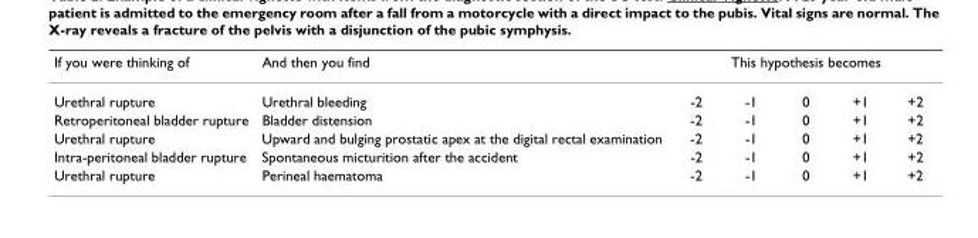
<table><thead><tr><td rowspan="2">If you were thinking of Urethral rupture</td><td rowspan="2">And then you find Urethral bleeding</td><td colspan="5">This hypothesis becomes</td></tr><tr><td>-2</td><td>-1</td><td>0</td><td>+1</td><td>+2</td></tr></thead><tbody><tr><td>Retroperitoneal bladder rupture</td><td>Bladder distension</td><td>-2</td><td>-1</td><td>0</td><td>+1</td><td>+2</td></tr><tr><td>Urethral rupture</td><td>Upward and bulging prostatic apex at the digital rectal examination</td><td>-2</td><td>-1</td><td>0</td><td>+1</td><td>+2</td></tr><tr><td>Intra-peritoneal bladder rupture</td><td>Spontaneous micturition after the accident</td><td>-2</td><td>-1</td><td>0</td><td>+1</td><td>+2</td></tr><tr><td>Urethral rupture</td><td>Perineal haematoma</td><td>-2</td><td>-1</td><td>0</td><td>+1</td><td>+2</td></tr></tbody></table>